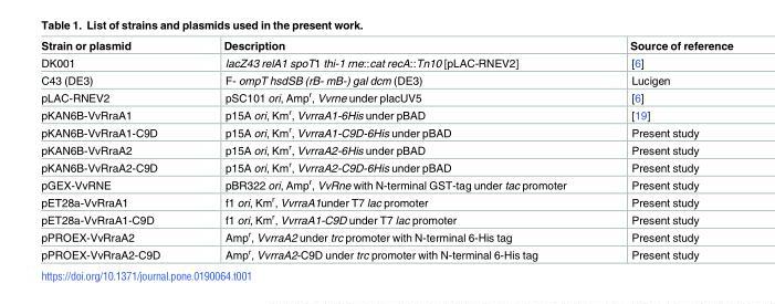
<table><thead><tr><td>Strain or plasmid</td><td>Description</td><td>Source of reference</td></tr></thead><tbody><tr><td>DK001</td><td>lacZ43 relA1 spoT1 thi-1 rne::cat recA::Tn10 [pLAC-RNEV2]</td><td>[6]</td></tr><tr><td>C43 (DE3)</td><td>F- ompT hsdSB (rB- mB-) gal dcm (DE3)</td><td>Lucigen</td></tr><tr><td>pLAC-RNEV2</td><td>pSC101 ori, Amp<sup>r</sup>, Vvrne under placUV5</td><td>[6]</td></tr><tr><td>pKAN6B-VvRraA1</td><td>p15A ori, Km<sup>r</sup>, VvrraA1-6His under pBAD</td><td>[19]</td></tr><tr><td>pKAN6B-VvRraA1-C9D</td><td>p15A ori, Km<sup>r</sup>, VvrraA1-C9D-6His under pBAD</td><td>Present study</td></tr><tr><td>pKAN6B-VvRraA2</td><td>p15A ori, Km<sup>r</sup>, VvrraA2-6His under pBAD</td><td>Present study</td></tr><tr><td>pKAN6B-VvRraA2-C9D</td><td>p15A ori, Km<sup>r</sup>, VvrraA2-C9D-6His under pBAD</td><td>Present study</td></tr><tr><td>pGEX-VvRNE</td><td>pBR322 ori, Amp<sup>r</sup>, VvRne with N-terminal GST-tag under tac promoter</td><td>Present study</td></tr><tr><td>pET28a-VvRraA1</td><td>f1 ori, Km<sup>r</sup>, VvrraA1under T7 lac promoter</td><td>Present study</td></tr><tr><td>pET28a-VvRraA1-C9D</td><td>f1 ori, Km<sup>r</sup>, VvrraA1-C9D under T7 lac promoter</td><td>Present study</td></tr><tr><td>pPROEX-VvRraA2</td><td>Amp<sup>r</sup>, VvrraA2 under trc promoter with N-terminal 6-His tag</td><td>Present study</td></tr><tr><td>pPROEX-VvRraA2-C9D</td><td>Amp<sup>r</sup>, VvrraA2-C9D under trc promoter with N-terminal 6-His tag</td><td>Present study</td></tr></tbody></table>